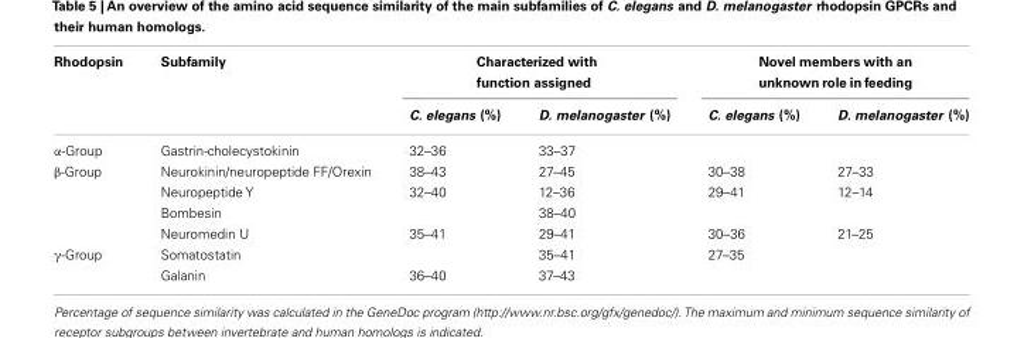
<table><thead><tr><td rowspan="2">Rhodopsin</td><td rowspan="2">Subfamily</td><td colspan="2">Characterized with function assigned</td><td colspan="2">Novel members with an unknown role in feeding</td></tr><tr><td>C. elegans (%)</td><td>D. melanogaster (%)</td><td>C. elegans (%)</td><td>D. melanogaster (%)</td></tr></thead><tbody><tr><td>α-Group</td><td>Gastrin-cholecystokinin</td><td>32–36</td><td>33–37</td><td></td><td></td></tr><tr><td rowspan="4">β-Group</td><td>Neurokinin/neuropeptide FF/Orexin</td><td>38–43</td><td>27–45</td><td>30–38</td><td>27–33</td></tr><tr><td>Neuropeptide Y</td><td>32–40</td><td>12–36</td><td>29–41</td><td>12–14</td></tr><tr><td>Bombesin</td><td></td><td>38–40</td><td></td><td></td></tr><tr><td>Neuromedin U</td><td>35–41</td><td>29–41</td><td>30–36</td><td>21–25</td></tr><tr><td rowspan="2">γ-Group</td><td>Somatostatin</td><td></td><td>35–41</td><td>27–35</td><td></td></tr><tr><td>Galanin</td><td>36–40</td><td>37–43</td><td></td><td></td></tr></tbody></table>